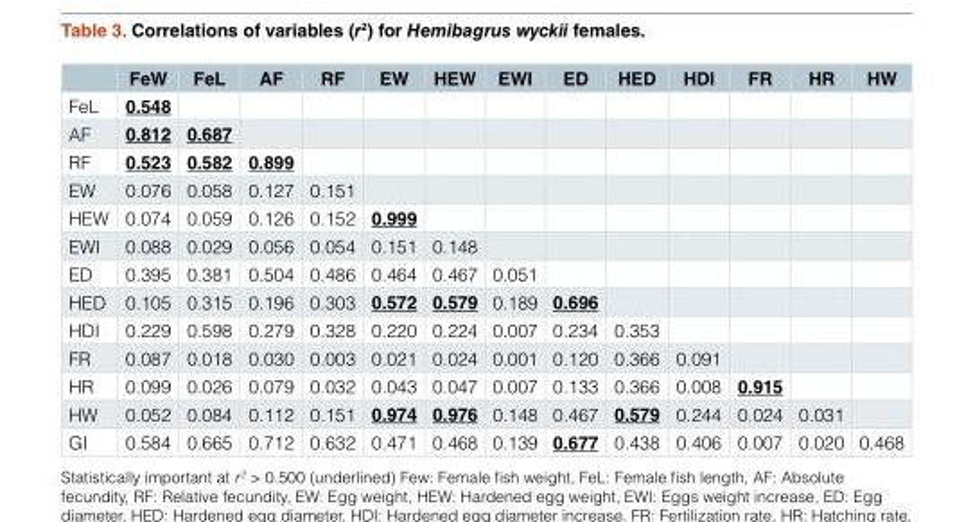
<table><thead><tr><td></td><td>FeW</td><td>FeL</td><td>AF</td><td>RF</td><td>EW</td><td>HEW</td><td>EWI</td><td>ED</td><td>HED</td><td>HDI</td><td>FR</td><td>HR</td><td>HW</td></tr></thead><tbody><tr><td>FeL</td><td>0.548</td><td></td><td></td><td></td><td></td><td></td><td></td><td></td><td></td><td></td><td></td><td></td><td></td></tr><tr><td>AF</td><td>0.812</td><td>0.687</td><td></td><td></td><td></td><td></td><td></td><td></td><td></td><td></td><td></td><td></td><td></td></tr><tr><td>RF</td><td>0.523</td><td>0.582</td><td>0.899</td><td></td><td></td><td></td><td></td><td></td><td></td><td></td><td></td><td></td><td></td></tr><tr><td>EW</td><td>0.076</td><td>0.058</td><td>0.127</td><td>0.151</td><td></td><td></td><td></td><td></td><td></td><td></td><td></td><td></td><td></td></tr><tr><td>HEW</td><td>0.074</td><td>0.059</td><td>0.126</td><td>0.152</td><td>0.999</td><td></td><td></td><td></td><td></td><td></td><td></td><td></td><td></td></tr><tr><td>EWI</td><td>0.088</td><td>0.029</td><td>0.056</td><td>0.054</td><td>0.151</td><td>0.148</td><td></td><td></td><td></td><td></td><td></td><td></td><td></td></tr><tr><td>ED</td><td>0.395</td><td>0.381</td><td>0.504</td><td>0.486</td><td>0.464</td><td>0.467</td><td>0.051</td><td></td><td></td><td></td><td></td><td></td><td></td></tr><tr><td>HED</td><td>0.105</td><td>0.315</td><td>0.196</td><td>0.303</td><td>0.572</td><td>0.579</td><td>0.189</td><td>0.696</td><td></td><td></td><td></td><td></td><td></td></tr><tr><td>HDI</td><td>0.229</td><td>0.598</td><td>0.279</td><td>0.328</td><td>0.220</td><td>0.224</td><td>0.007</td><td>0.234</td><td>0.353</td><td></td><td></td><td></td><td></td></tr><tr><td>FR</td><td>0.087</td><td>0.018</td><td>0.030</td><td>0.003</td><td>0.021</td><td>0.024</td><td>0.001</td><td>0.120</td><td>0.366</td><td>0.091</td><td></td><td></td><td></td></tr><tr><td>HR</td><td>0.099</td><td>0.026</td><td>0.079</td><td>0.032</td><td>0.043</td><td>0.047</td><td>0.007</td><td>0.133</td><td>0.366</td><td>0.008</td><td>0.915</td><td></td><td></td></tr><tr><td>HW</td><td>0.052</td><td>0.084</td><td>0.112</td><td>0.151</td><td>0.974</td><td>0.976</td><td>0.148</td><td>0.467</td><td>0.579</td><td>0.244</td><td>0.024</td><td>0.031</td><td></td></tr><tr><td>GI</td><td>0.584</td><td>0.665</td><td>0.712</td><td>0.632</td><td>0.471</td><td>0.468</td><td>0.139</td><td>0.677</td><td>0.438</td><td>0.406</td><td>0.007</td><td>0.020</td><td>0.468</td></tr></tbody></table>